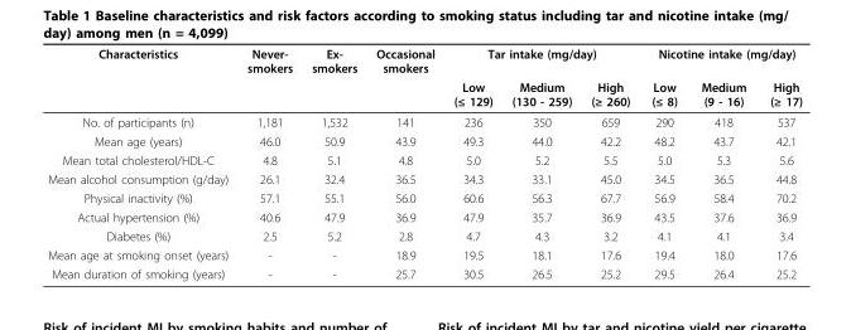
<table><thead><tr><td rowspan="2">Characteristics</td><td rowspan="2">Never- smokers</td><td rowspan="2">Ex- smokers</td><td rowspan="2">Occasional smokers</td><td colspan="3">Tar intake (mg/day)</td><td colspan="3">Nicotine intake (mg/day)</td></tr><tr><td>Low (≤ 129)</td><td>Medium (130 - 259)</td><td>High (≥ 260)</td><td>Low (≤ 8)</td><td>Medium (9 - 16)</td><td>High (≥ 17)</td></tr></thead><tbody><tr><td>No. of participants (n)</td><td>1,181</td><td>1,532</td><td>141</td><td>236</td><td>350</td><td>659</td><td>290</td><td>418</td><td>537</td></tr><tr><td>Mean age (years)</td><td>46.0</td><td>50.9</td><td>43.9</td><td>49.3</td><td>44.0</td><td>42.2</td><td>48.2</td><td>43.7</td><td>42.1</td></tr><tr><td>Mean total cholesterol/HDL-C</td><td>4.8</td><td>5.1</td><td>4.8</td><td>5.0</td><td>5.2</td><td>5.5</td><td>5.0</td><td>5.3</td><td>5.6</td></tr><tr><td>Mean alcohol consumption (g/day)</td><td>26.1</td><td>32.4</td><td>36.5</td><td>34.3</td><td>33.1</td><td>45.0</td><td>34.5</td><td>36.5</td><td>44.8</td></tr><tr><td>Physical inactivity (%)</td><td>57.1</td><td>55.1</td><td>56.0</td><td>60.6</td><td>56.3</td><td>67.7</td><td>56.9</td><td>58.4</td><td>70.2</td></tr><tr><td>Actual hypertension (%)</td><td>40.6</td><td>47.9</td><td>36.9</td><td>47.9</td><td>35.7</td><td>36.9</td><td>43.5</td><td>37.6</td><td>36.9</td></tr><tr><td>Diabetes (%)</td><td>2.5</td><td>5.2</td><td>2.8</td><td>4.7</td><td>4.3</td><td>3.2</td><td>4.1</td><td>4.1</td><td>3.4</td></tr><tr><td>Mean age at smoking onset (years)</td><td>-</td><td>-</td><td>18.9</td><td>19.5</td><td>18.1</td><td>17.6</td><td>19.4</td><td>18.0</td><td>17.6</td></tr><tr><td>Mean duration of smoking (years)</td><td>-</td><td>-</td><td>25.7</td><td>30.5</td><td>26.5</td><td>25.2</td><td>29.5</td><td>26.4</td><td>25.2</td></tr></tbody></table>